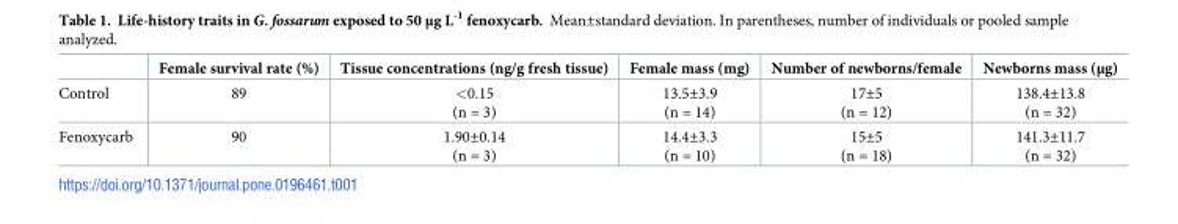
<table><thead><tr><td></td><td>Female survival rate (%)</td><td>Tissue concentrations (ng/g fresh tissue)</td><td>Female mass (mg)</td><td>Number of newborns/female</td><td>Newborns mass (μg)</td></tr></thead><tbody><tr><td>Control</td><td>89</td><td>&lt;0.15 (n = 3)</td><td>13.5±3.9 (n = 14)</td><td>17±5 (n = 12)</td><td>138.4±13.8 (n = 32)</td></tr><tr><td>Fenoxycarb</td><td>90</td><td>1.90±0.14 (n = 3)</td><td>14.4±3.3 (n = 10)</td><td>15±5 (n = 18)</td><td>141.3±11.7 (n = 32)</td></tr></tbody></table>